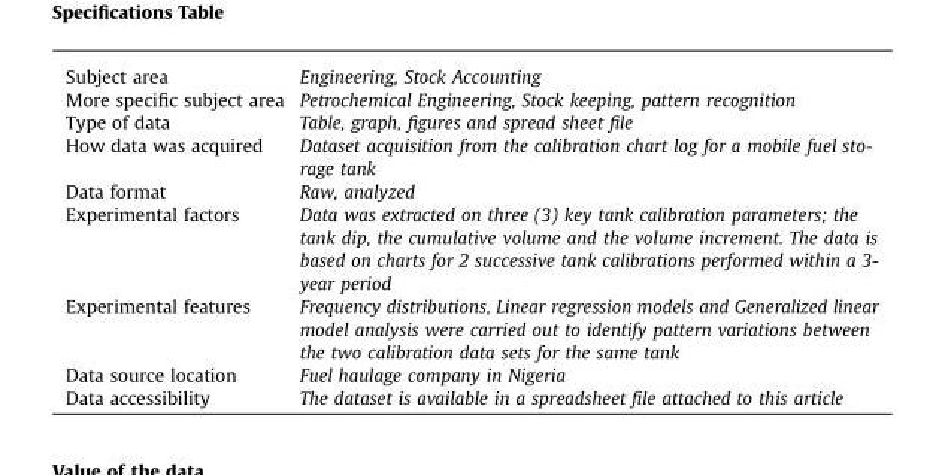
<table><tbody><tr><td>Subject area</td><td>Engineering, Stock Accounting</td></tr><tr><td>More specific subject area</td><td>Petrochemical Engineering, Stock keeping, pattern recognition</td></tr><tr><td>Type of data</td><td>Table, graph, figures and spread sheet file</td></tr><tr><td>How data was acquired</td><td>Dataset acquisition from the calibration chart log for a mobile fuel sto- rage tank</td></tr><tr><td>Data format</td><td>Raw, analyzed</td></tr><tr><td>Experimental factors</td><td>Data was extracted on three (3) key tank calibration parameters; the tank dip, the cumulative volume and the volume increment. The data is based on charts for 2 successive tank calibrations performed within a 3- year period</td></tr><tr><td>Experimental features</td><td>Frequency distributions, Linear regression models and Generalized linear model analysis were carried out to identify pattern variations between the two calibration data sets for the same tank</td></tr><tr><td>Data source location</td><td>Fuel haulage company in Nigeria</td></tr><tr><td>Data accessibility</td><td>The dataset is available in a spreadsheet file attached to this article</td></tr></tbody></table>